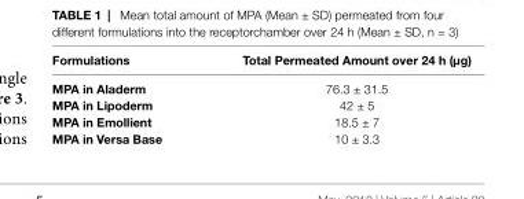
<table><thead><tr><td>Formulations</td><td>Total Permeated Amount over 24 h (µg)</td></tr></thead><tbody><tr><td>MPA in Aladerm</td><td>76.3 ± 31.5</td></tr><tr><td>MPA in Lipoderm</td><td>42 ± 5</td></tr><tr><td>MPA in Emollient</td><td>18.5 ± 7</td></tr><tr><td>MPA in Versa Base</td><td>10 ± 3.3</td></tr></tbody></table>